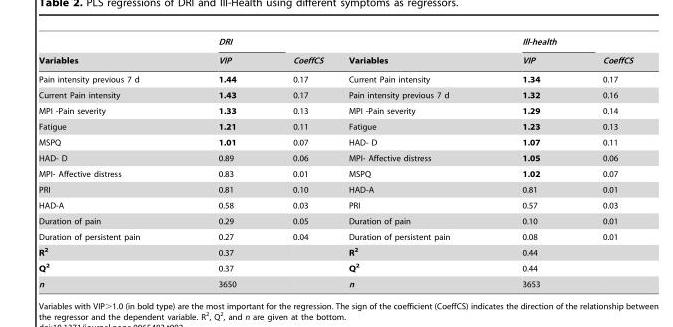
<table><thead><tr><td rowspan="2">Variables</td><td rowspan="2">DRI VIP</td><td rowspan="2">CoeffCS</td><td rowspan="2">Variables</td><td rowspan="2">Ill-health VIP</td><td rowspan="2">CoeffCS</td></tr><tr></tr></thead><tbody><tr><td>Pain intensity previous 7 d</td><td>1.44</td><td>0.17</td><td>Current Pain intensity</td><td>1.34</td><td>0.17</td></tr><tr><td>Current Pain intensity</td><td>1.43</td><td>0.17</td><td>Pain intensity previous 7 d</td><td>1.32</td><td>0.16</td></tr><tr><td>MPI -Pain severity</td><td>1.33</td><td>0.13</td><td>MPI -Pain severity</td><td>1.29</td><td>0.14</td></tr><tr><td>Fatigue</td><td>1.21</td><td>0.11</td><td>Fatigue</td><td>1.23</td><td>0.13</td></tr><tr><td>MSPQ</td><td>1.01</td><td>0.07</td><td>HAD- D</td><td>1.07</td><td>0.11</td></tr><tr><td>HAD- D</td><td>0.89</td><td>0.06</td><td>MPI- Affective distress</td><td>1.05</td><td>0.06</td></tr><tr><td>MPI- Affective distress</td><td>0.83</td><td>0.01</td><td>MSPQ</td><td>1.02</td><td>0.07</td></tr><tr><td>PRI</td><td>0.81</td><td>0.10</td><td>HAD-A</td><td>0.81</td><td>0.01</td></tr><tr><td>HAD-A</td><td>0.58</td><td>0.03</td><td>PRI</td><td>0.57</td><td>0.03</td></tr><tr><td>Duration of pain</td><td>0.29</td><td>0.05</td><td>Duration of pain</td><td>0.10</td><td>0.01</td></tr><tr><td>Duration of persistent pain</td><td>0.27</td><td>0.04</td><td>Duration of persistent pain</td><td>0.08</td><td>0.01</td></tr><tr><td>R<sup>2</sup></td><td>0.37</td><td></td><td>R<sup>2</sup></td><td>0.44</td><td></td></tr><tr><td>Q<sup>2</sup></td><td>0.37</td><td></td><td>Q<sup>2</sup></td><td>0.44</td><td></td></tr><tr><td>n</td><td>3650</td><td></td><td>n</td><td>3653</td><td></td></tr></tbody></table>